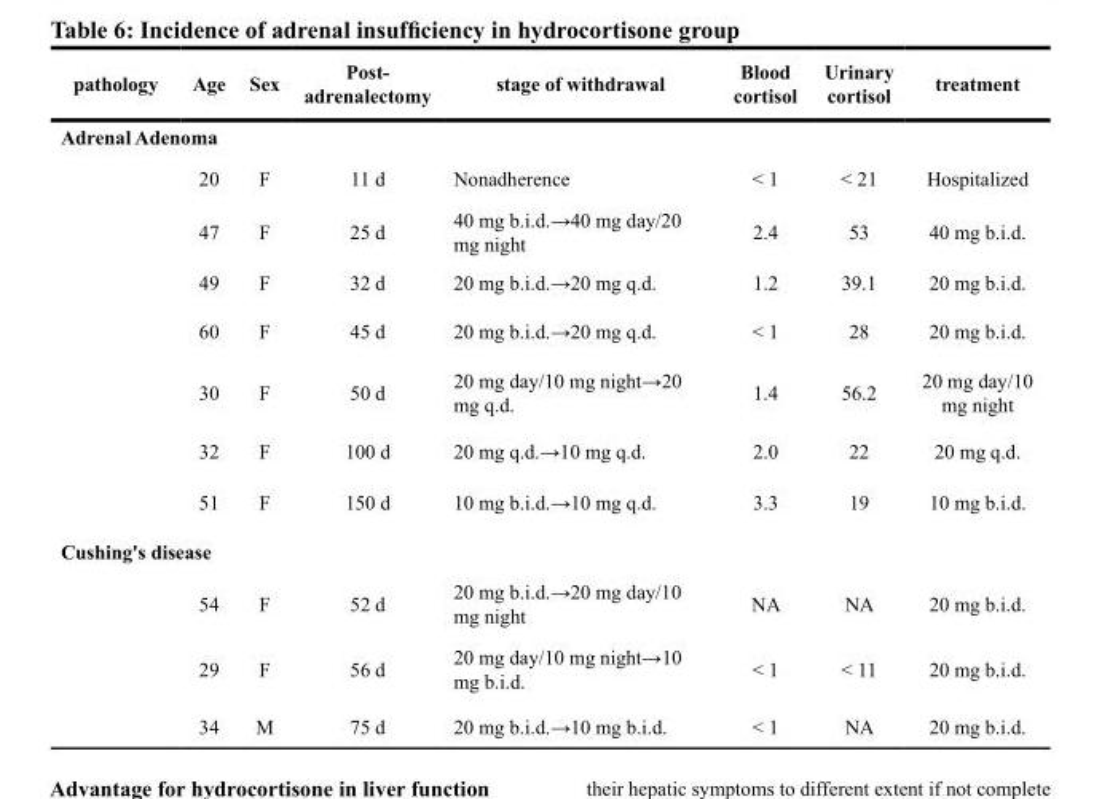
<table><thead><tr><td>pathology</td><td>Age</td><td>Sex</td><td>Post- adrenalectomy</td><td>stage of withdrawal</td><td>Blood cortisol</td><td>Urinary cortisol</td><td>treatment</td></tr></thead><tbody><tr><td colspan="8">Adrenal Adenoma</td></tr><tr><td></td><td>20</td><td>F</td><td>11 d</td><td>Nonadherence</td><td>&lt; 1</td><td>&lt; 21</td><td>Hospitalized</td></tr><tr><td></td><td>47</td><td>F</td><td>25 d</td><td>40 mg b.i.d.→40 mg day/20 mg night</td><td>2.4</td><td>53</td><td>40 mg b.i.d.</td></tr><tr><td></td><td>49</td><td>F</td><td>32 d</td><td>20 mg b.i.d.→20 mg q.d.</td><td>1.2</td><td>39.1</td><td>20 mg b.i.d.</td></tr><tr><td></td><td>60</td><td>F</td><td>45 d</td><td>20 mg b.i.d.→20 mg q.d.</td><td>&lt; 1</td><td>28</td><td>20 mg b.i.d.</td></tr><tr><td></td><td>30</td><td>F</td><td>50 d</td><td>20 mg day/10 mg night→20 mg q.d.</td><td>1.4</td><td>56.2</td><td>20 mg day/10 mg night</td></tr><tr><td></td><td>32</td><td>F</td><td>100 d</td><td>20 mg q.d.→10 mg q.d.</td><td>2.0</td><td>22</td><td>20 mg q.d.</td></tr><tr><td></td><td>51</td><td>F</td><td>150 d</td><td>10 mg b.i.d.→10 mg q.d.</td><td>3.3</td><td>19</td><td>10 mg b.i.d.</td></tr><tr><td colspan="8">Cushing&#x27;s disease</td></tr><tr><td></td><td>54</td><td>F</td><td>52 d</td><td>20 mg b.i.d.→20 mg day/10 mg night</td><td>NA</td><td>NA</td><td>20 mg b.i.d.</td></tr><tr><td></td><td>29</td><td>F</td><td>56 d</td><td>20 mg day/10 mg night→10 mg b.i.d.</td><td>&lt; 1</td><td>&lt; 11</td><td>20 mg b.i.d.</td></tr><tr><td></td><td>34</td><td>M</td><td>75 d</td><td>20 mg b.i.d.→10 mg b.i.d.</td><td>&lt; 1</td><td>NA</td><td>20 mg b.i.d.</td></tr></tbody></table>